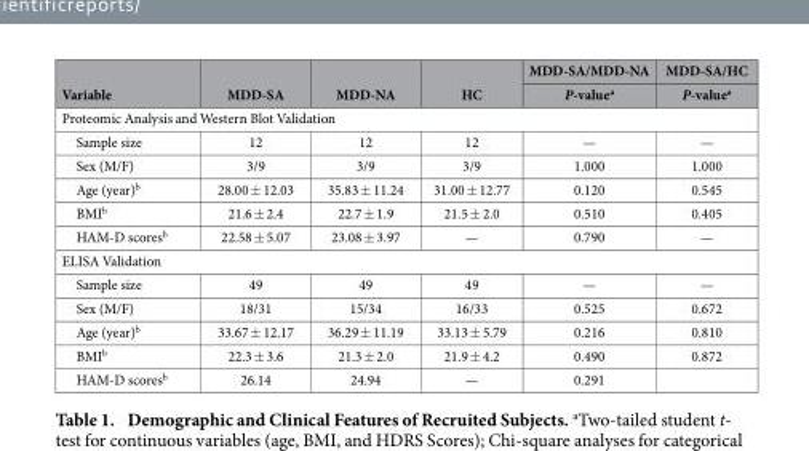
<table><thead><tr><td rowspan="2">Variable</td><td rowspan="2">MDD-SA</td><td rowspan="2">MDD-NA</td><td rowspan="2">HC</td><td rowspan="2">MDD-SA/MDD-NA P-value<sup>a</sup></td><td rowspan="2">MDD-SA/HC P-value<sup>a</sup></td></tr><tr></tr></thead><tbody><tr><td colspan="6">Proteomic Analysis and Western Blot Validation</td></tr><tr><td>Sample size</td><td>12</td><td>12</td><td>12</td><td>—</td><td>—</td></tr><tr><td>Sex (M/F)</td><td>3/9</td><td>3/9</td><td>3/9</td><td>1.000</td><td>1.000</td></tr><tr><td>Age (year)<sup>b</sup></td><td>28.00 ± 12.03</td><td>35.83 ± 11.24</td><td>31.00 ± 12.77</td><td>0.120</td><td>0.545</td></tr><tr><td>BMI<sup>b</sup></td><td>21.6 ± 2.4</td><td>22.7 ± 1.9</td><td>21.5 ± 2.0</td><td>0.510</td><td>0.405</td></tr><tr><td>HAM-D scores<sup>b</sup></td><td>22.58 ± 5.07</td><td>23.08 ± 3.97</td><td>—</td><td>0.790</td><td>—</td></tr><tr><td colspan="6">ELISA Validation</td></tr><tr><td>Sample size</td><td>49</td><td>49</td><td>49</td><td>—</td><td>—</td></tr><tr><td>Sex (M/F)</td><td>18/31</td><td>15/34</td><td>16/33</td><td>0.525</td><td>0.672</td></tr><tr><td>Age (year)<sup>b</sup></td><td>33.67 ± 12.17</td><td>36.29 ± 11.19</td><td>33.13 ± 5.79</td><td>0.216</td><td>0.810</td></tr><tr><td>BMI<sup>b</sup></td><td>22.3 ± 3.6</td><td>21.3 ± 2.0</td><td>21.9 ± 4.2</td><td>0.490</td><td>0.872</td></tr><tr><td>HAM-D scores<sup>b</sup></td><td>26.14</td><td>24.94</td><td>—</td><td>0.291</td><td></td></tr></tbody></table>